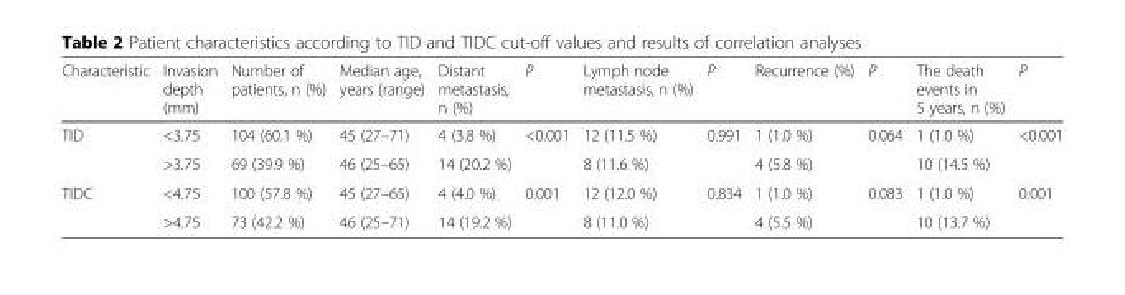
<table><thead><tr><td>Characteristic</td><td>Invasion depth (mm)</td><td>Number of patients, n (%)</td><td>Median age, years (range)</td><td>Distant metastasis, n (%)</td><td>P</td><td>Lymph node metastasis, n (%)</td><td>P</td><td>Recurrence (%)</td><td>P</td><td>The death events in 5 years, n (%)</td><td>P</td></tr></thead><tbody><tr><td rowspan="2">TID</td><td>&lt;3.75</td><td>104 (60.1 %)</td><td>45 (27–71)</td><td>4 (3.8 %)</td><td rowspan="2">&lt;0.001</td><td>12 (11.5 %)</td><td rowspan="2">0.991</td><td>1 (1.0 %)</td><td rowspan="2">0.064</td><td>1 (1.0 %)</td><td rowspan="2">&lt;0.001</td></tr><tr><td>&gt;3.75</td><td>69 (39.9 %)</td><td>46 (25–65)</td><td>14 (20.2 %)</td><td>8 (11.6 %)</td><td>4 (5.8 %)</td><td>10 (14.5 %)</td></tr><tr><td rowspan="2">TIDC</td><td>&lt;4.75</td><td>100 (57.8 %)</td><td>45 (27–65)</td><td>4 (4.0 %)</td><td rowspan="2">0.001</td><td>12 (12.0 %)</td><td rowspan="2">0.834</td><td>1 (1.0 %)</td><td>0.083</td><td>1 (1.0 %)</td><td rowspan="2">0.001</td></tr><tr><td>&gt;4.75</td><td>73 (42.2 %)</td><td>46 (25–71)</td><td>14 (19.2 %)</td><td>8 (11.0 %)</td><td>4 (5.5 %)</td><td></td><td>10 (13.7 %)</td></tr></tbody></table>